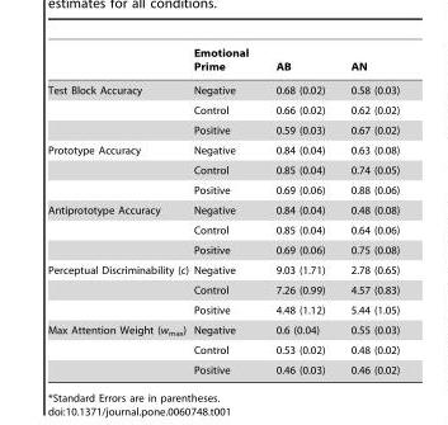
<table><thead><tr><td></td><td>Emotional Prime</td><td>AB</td><td>AN</td></tr></thead><tbody><tr><td rowspan="3">Test Block Accuracy</td><td>Negative</td><td>0.68 (0.02)</td><td>0.58 (0.03)</td></tr><tr><td>Control</td><td>0.66 (0.02)</td><td>0.62 (0.02)</td></tr><tr><td>Positive</td><td>0.59 (0.03)</td><td>0.67 (0.02)</td></tr><tr><td rowspan="3">Prototype Accuracy</td><td>Negative</td><td>0.84 (0.04)</td><td>0.63 (0.08)</td></tr><tr><td>Control</td><td>0.85 (0.04)</td><td>0.74 (0.05)</td></tr><tr><td>Positive</td><td>0.69 (0.06)</td><td>0.88 (0.06)</td></tr><tr><td rowspan="3">Antiprototype Accuracy</td><td>Negative</td><td>0.84 (0.04)</td><td>0.48 (0.08)</td></tr><tr><td>Control</td><td>0.85 (0.04)</td><td>0.64 (0.06)</td></tr><tr><td>Positive</td><td>0.69 (0.06)</td><td>0.75 (0.08)</td></tr><tr><td rowspan="3">Perceptual Discriminability (c)</td><td>Negative</td><td>9.03 (1.71)</td><td>2.78 (0.65)</td></tr><tr><td>Control</td><td>7.26 (0.99)</td><td>4.57 (0.83)</td></tr><tr><td>Positive</td><td>4.48 (1.12)</td><td>5.44 (1.05)</td></tr><tr><td rowspan="3">Max Attention Weight (w<sub>max</sub>)</td><td>Negative</td><td>0.6 (0.04)</td><td>0.55 (0.03)</td></tr><tr><td>Control</td><td>0.53 (0.02)</td><td>0.48 (0.02)</td></tr><tr><td>Positive</td><td>0.46 (0.03)</td><td>0.46 (0.02)</td></tr></tbody></table>